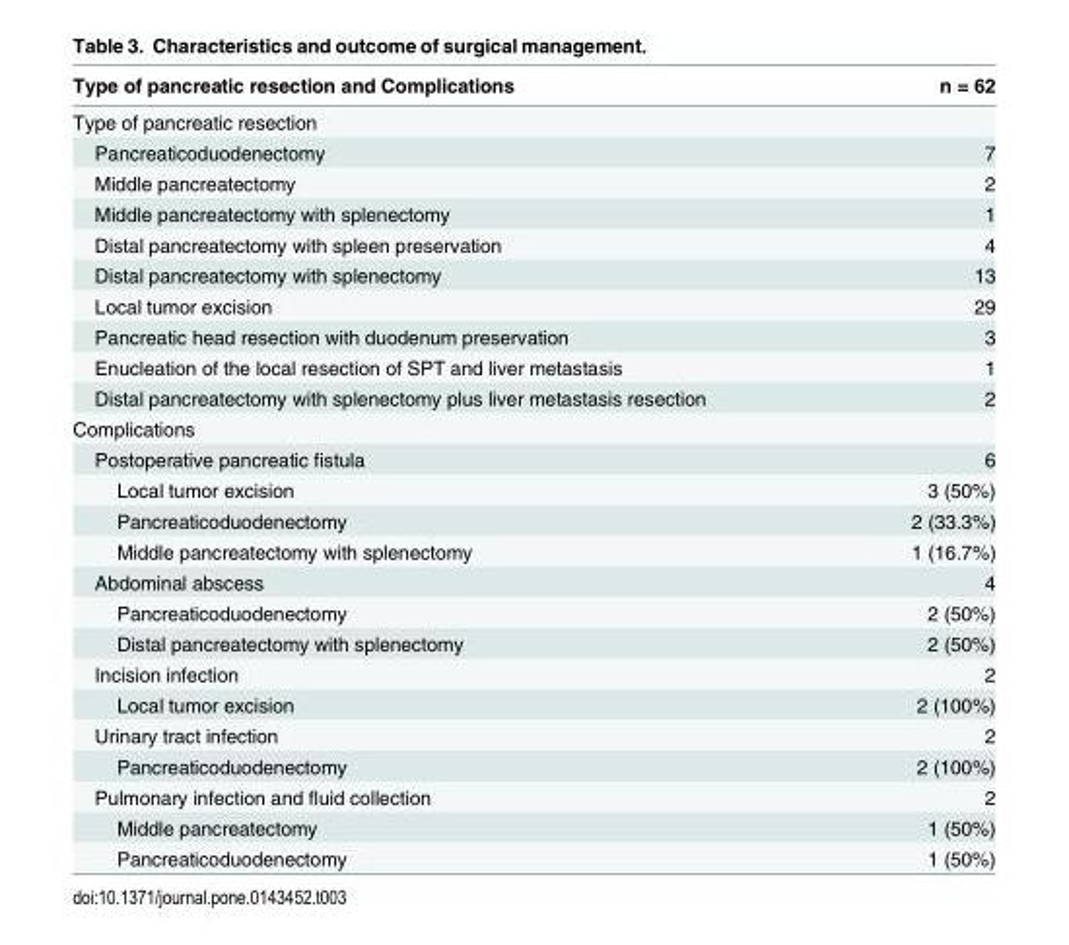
<table><thead><tr><td>Type of pancreatic resection and Complications</td><td>n = 62</td></tr></thead><tbody><tr><td colspan="2">Type of pancreatic resection</td></tr><tr><td>Pancreaticoduodenectomy</td><td>7</td></tr><tr><td>Middle pancreatectomy</td><td>2</td></tr><tr><td>Middle pancreatectomy with splenectomy</td><td>1</td></tr><tr><td>Distal pancreatectomy with spleen preservation</td><td>4</td></tr><tr><td>Distal pancreatectomy with splenectomy</td><td>13</td></tr><tr><td>Local tumor excision</td><td>29</td></tr><tr><td>Pancreatic head resection with duodenum preservation</td><td>3</td></tr><tr><td>Enucleation of the local resection of SPT and liver metastasis</td><td>1</td></tr><tr><td>Distal pancreatectomy with splenectomy plus liver metastasis resection</td><td>2</td></tr><tr><td colspan="2">Complications</td></tr><tr><td>Postoperative pancreatic fistula</td><td>6</td></tr><tr><td>Local tumor excision</td><td>3 (50%)</td></tr><tr><td>Pancreaticoduodenectomy</td><td>2 (33.3%)</td></tr><tr><td>Middle pancreatectomy with splenectomy</td><td>1 (16.7%)</td></tr><tr><td>Abdominal abscess</td><td>4</td></tr><tr><td>Pancreaticoduodenectomy</td><td>2 (50%)</td></tr><tr><td>Distal pancreatectomy with splenectomy</td><td>2 (50%)</td></tr><tr><td>Incision infection</td><td>2</td></tr><tr><td>Local tumor excision</td><td>2 (100%)</td></tr><tr><td>Urinary tract infection</td><td>2</td></tr><tr><td>Pancreaticoduodenectomy</td><td>2 (100%)</td></tr><tr><td>Pulmonary infection and fluid collection</td><td>2</td></tr><tr><td>Middle pancreatectomy</td><td>1 (50%)</td></tr><tr><td>Pancreaticoduodenectomy</td><td>1 (50%)</td></tr></tbody></table>